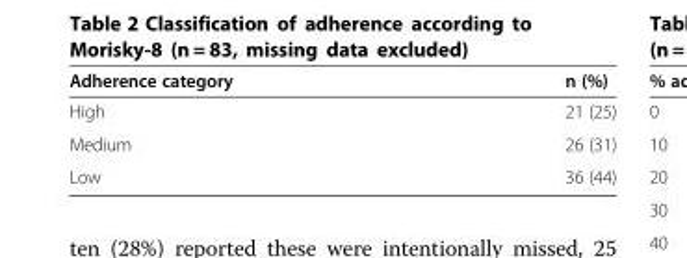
<table><thead><tr><td>Adherence category</td><td>n (%)</td></tr></thead><tbody><tr><td>High</td><td>21 (25)</td></tr><tr><td>Medium</td><td>26 (31)</td></tr><tr><td>Low</td><td>36 (44)</td></tr></tbody></table>